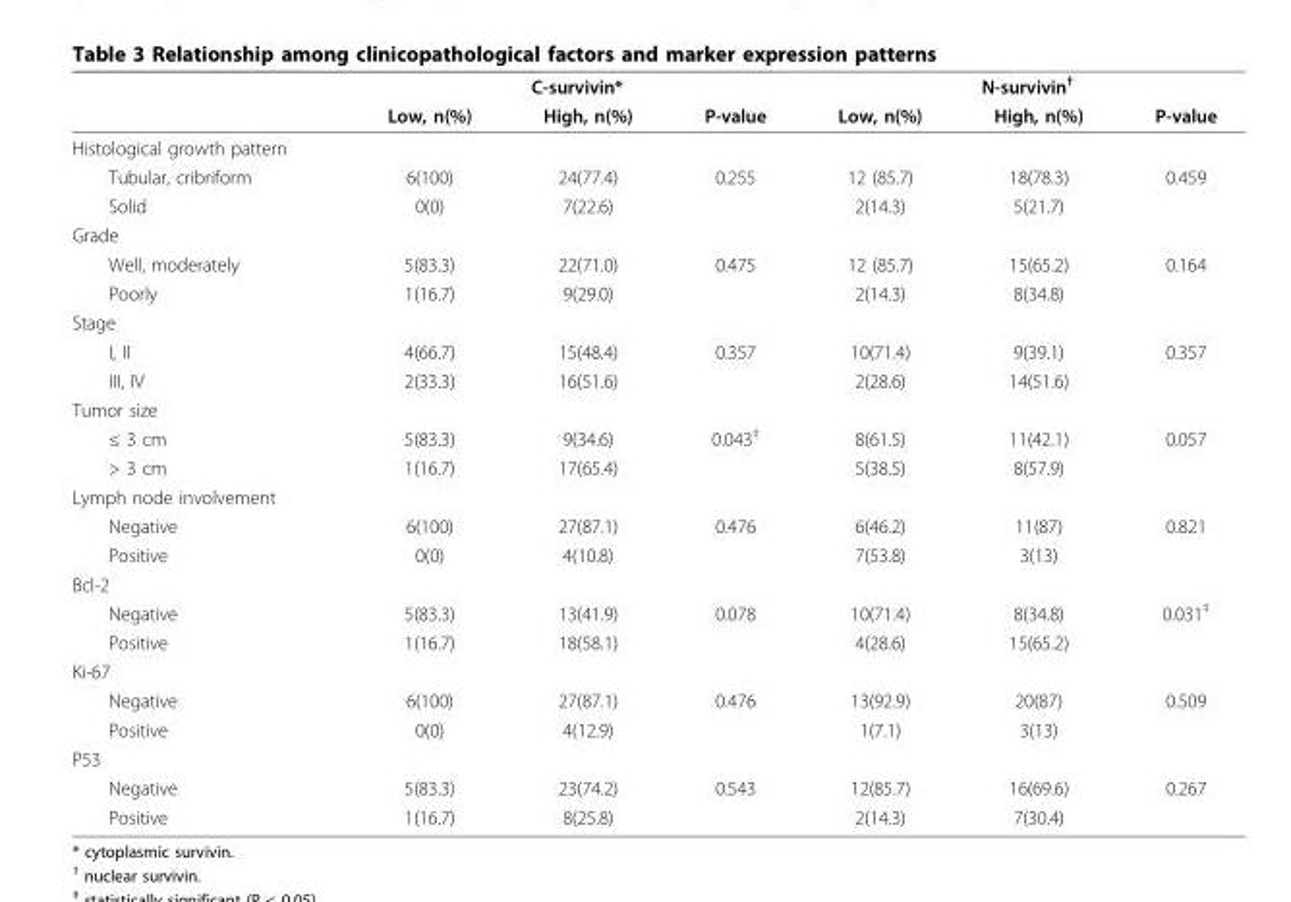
<table><thead><tr><td rowspan="2"></td><td colspan="3">C-survivin*</td><td colspan="3">N-survivin<sup>†</sup></td></tr><tr><td>Low, n(%)</td><td>High, n(%)</td><td>P-value</td><td>Low, n(%)</td><td>High, n(%)</td><td>P-value</td></tr></thead><tbody><tr><td colspan="7">Histological growth pattern</td></tr><tr><td>Tubular, cribriform</td><td>6(100)</td><td>24(77.4)</td><td>0.255</td><td>12 (85.7)</td><td>18(78.3)</td><td>0.459</td></tr><tr><td>Solid</td><td>0(0)</td><td>7(22.6)</td><td></td><td>2(14.3)</td><td>5(21.7)</td><td></td></tr><tr><td colspan="7">Grade</td></tr><tr><td>Well, moderately</td><td>5(83.3)</td><td>22(71.0)</td><td>0.475</td><td>12 (85.7)</td><td>15(65.2)</td><td>0.164</td></tr><tr><td>Poorly</td><td>1(16.7)</td><td>9(29.0)</td><td></td><td>2(14.3)</td><td>8(34.8)</td><td></td></tr><tr><td colspan="7">Stage</td></tr><tr><td>I, II</td><td>4(66.7)</td><td>15(48.4)</td><td>0.357</td><td>10(71.4)</td><td>9(39.1)</td><td>0.357</td></tr><tr><td>III, IV</td><td>2(33.3)</td><td>16(51.6)</td><td></td><td>2(28.6)</td><td>14(51.6)</td><td></td></tr><tr><td colspan="7">Tumor size</td></tr><tr><td>≤ 3 cm</td><td>5(83.3)</td><td>9(34.6)</td><td>0.043<sup>‡</sup></td><td>8(61.5)</td><td>11(42.1)</td><td>0.057</td></tr><tr><td>&gt; 3 cm</td><td>1(16.7)</td><td>17(65.4)</td><td></td><td>5(38.5)</td><td>8(57.9)</td><td></td></tr><tr><td colspan="7">Lymph node involvement</td></tr><tr><td>Negative</td><td>6(100)</td><td>27(87.1)</td><td>0.476</td><td>6(46.2)</td><td>11(87)</td><td>0.821</td></tr><tr><td>Positive</td><td>0(0)</td><td>4(10.8)</td><td></td><td>7(53.8)</td><td>3(13)</td><td></td></tr><tr><td colspan="7">Bcl-2</td></tr><tr><td>Negative</td><td>5(83.3)</td><td>13(41.9)</td><td>0.078</td><td>10(71.4)</td><td>8(34.8)</td><td>0.031<sup>‡</sup></td></tr><tr><td>Positive</td><td>1(16.7)</td><td>18(58.1)</td><td></td><td>4(28.6)</td><td>15(65.2)</td><td></td></tr><tr><td colspan="7">Ki-67</td></tr><tr><td>Negative</td><td>6(100)</td><td>27(87.1)</td><td>0.476</td><td>13(92.9)</td><td>20(87)</td><td>0.509</td></tr><tr><td>Positive</td><td>0(0)</td><td>4(12.9)</td><td></td><td>1(7.1)</td><td>3(13)</td><td></td></tr><tr><td colspan="7">P53</td></tr><tr><td>Negative</td><td>5(83.3)</td><td>23(74.2)</td><td>0.543</td><td>12(85.7)</td><td>16(69.6)</td><td>0.267</td></tr><tr><td>Positive</td><td>1(16.7)</td><td>8(25.8)</td><td></td><td>2(14.3)</td><td>7(30.4)</td><td></td></tr></tbody></table>